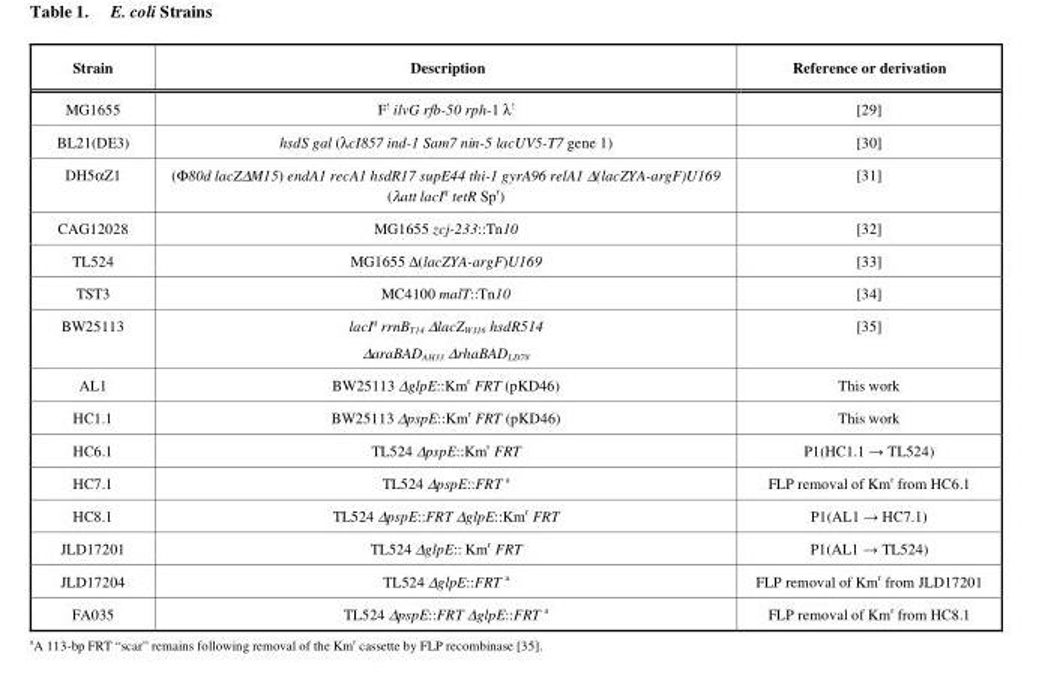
<table><thead><tr><td>Strain</td><td>Description</td><td>Reference or derivation</td></tr></thead><tbody><tr><td>MG1655</td><td>F<sup>!</sup> ilvG rfb-50 rph-1 λ<sup>!</sup></td><td>[29]</td></tr><tr><td>BL21(DE3)</td><td>hsdS gal (λcI857 ind-1 Sam7 nin-5 lacUV5-T7 gene 1)</td><td>[30]</td></tr><tr><td>DH5αZ1</td><td>(Ф80d lacZΔM15) endA1 recA1 hsdR17 supE44 thi-1 gyrA96 relA1 Δ(lacZYA-argF)U169 (λatt lacI<sup>q</sup> tetR Sp<sup>r</sup>)</td><td>[31]</td></tr><tr><td>CAG12028</td><td>MG1655 zcj-233::Tn10</td><td>[32]</td></tr><tr><td>TL524</td><td>MG1655 Δ(lacZYA-argF)U169</td><td>[33]</td></tr><tr><td>TST3</td><td>MC4100 malT::Tn10</td><td>[34]</td></tr><tr><td>BW25113</td><td>lacI<sup>q</sup> rrnB<sub>T14</sub> ΔlacZ<sub>WJ16</sub> hsdR514 ΔaraBAD<sub>AH33</sub> ΔrhaBAD<sub>LD78</sub></td><td>[35]</td></tr><tr><td>AL1</td><td>BW25113 ΔglpE::Km<sup>r</sup> FRT (pKD46)</td><td>This work</td></tr><tr><td>HC1.1</td><td>BW25113 ΔpspE::Km<sup>r</sup> FRT (pKD46)</td><td>This work</td></tr><tr><td>HC6.1</td><td>TL524 ΔpspE::Km<sup>r</sup> FRT</td><td>P1(HC1.1 → TL524)</td></tr><tr><td>HC7.1</td><td>TL524 ΔpspE::FRT <sup>a</sup></td><td>FLP removal of Km<sup>r</sup> from HC6.1</td></tr><tr><td>HC8.1</td><td>TL524 ΔpspE::FRT ΔglpE::Km<sup>r</sup> FRT</td><td>P1(AL1 → HC7.1)</td></tr><tr><td>JLD17201</td><td>TL524 ΔglpE:: Km<sup>r</sup> FRT</td><td>P1(AL1 → TL524)</td></tr><tr><td>JLD17204</td><td>TL524 ΔglpE::FRT <sup>a</sup></td><td>FLP removal of Km<sup>r</sup> from JLD17201</td></tr><tr><td>FA035</td><td>TL524 ΔpspE::FRT ΔglpE::FRT <sup>a</sup></td><td>FLP removal of Km<sup>r</sup> from HC8.1</td></tr></tbody></table>